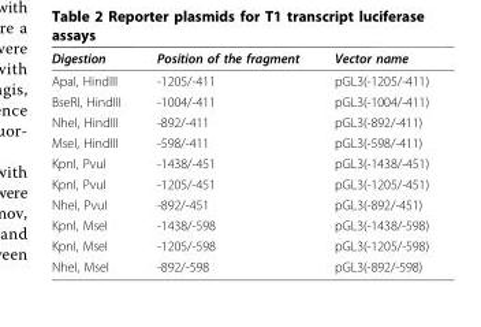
<table><thead><tr><td>Digestion</td><td>Position of the fragment</td><td>Vector name</td></tr></thead><tbody><tr><td>ApaI, HindIII</td><td>-1205/-411</td><td>pGL3(-1205/-411)</td></tr><tr><td>BseRI, HindIII</td><td>-1004/-411</td><td>pGL3(-1004/-411)</td></tr><tr><td>NheI, HindIII</td><td>-892/-411</td><td>pGL3(-892/-411)</td></tr><tr><td>MseI, HindIII</td><td>-598/-411</td><td>pGL3(-598/-411)</td></tr><tr><td>KpnI, PvuI</td><td>-1438/-451</td><td>pGL3(-1438/-451)</td></tr><tr><td>KpnI, PvuI</td><td>-1205/-451</td><td>pGL3(-1205/-451)</td></tr><tr><td>NheI, PvuI</td><td>-892/-451</td><td>pGL3(-892/-451)</td></tr><tr><td>KpnI, MseI</td><td>-1438/-598</td><td>pGL3(-1438/-598)</td></tr><tr><td>KpnI, MseI</td><td>-1205/-598</td><td>pGL3(-1205/-598)</td></tr><tr><td>NheI, MseI</td><td>-892/-598</td><td>pGL3(-892/-598)</td></tr></tbody></table>